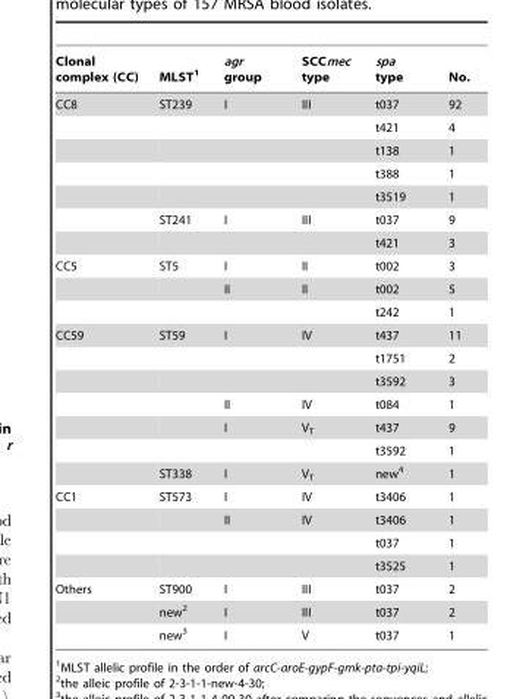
<table><thead><tr><td>Clonal complex (CC)</td><td>MLST<sup>1</sup></td><td>agr group</td><td>SCCmec type</td><td>spa type</td><td>No.</td></tr></thead><tbody><tr><td rowspan="7">CC8</td><td>ST239</td><td>I</td><td>III</td><td>t037</td><td>92</td></tr><tr><td></td><td></td><td></td><td>t421</td><td>4</td></tr><tr><td></td><td></td><td></td><td>t138</td><td>1</td></tr><tr><td></td><td></td><td></td><td>t388</td><td>1</td></tr><tr><td></td><td></td><td></td><td>t3519</td><td>1</td></tr><tr><td>ST241</td><td>I</td><td>III</td><td>t037</td><td>9</td></tr><tr><td></td><td></td><td></td><td>t421</td><td>3</td></tr><tr><td rowspan="3">CC5</td><td>ST5</td><td>I</td><td>II</td><td>t002</td><td>3</td></tr><tr><td></td><td>II</td><td>II</td><td>t002</td><td>5</td></tr><tr><td></td><td></td><td></td><td>t242</td><td>1</td></tr><tr><td rowspan="7">CC59</td><td>ST59</td><td>I</td><td>IV</td><td>t437</td><td>11</td></tr><tr><td></td><td></td><td></td><td>t1751</td><td>2</td></tr><tr><td></td><td></td><td></td><td>t3592</td><td>3</td></tr><tr><td></td><td>II</td><td>IV</td><td>t084</td><td>1</td></tr><tr><td></td><td>I</td><td>V<sub>T</sub></td><td>t437</td><td>9</td></tr><tr><td></td><td></td><td></td><td>t3592</td><td>1</td></tr><tr><td>ST338</td><td>I</td><td>V<sub>T</sub></td><td>new<sup>4</sup></td><td>1</td></tr><tr><td rowspan="4">CC1</td><td>ST573</td><td>I</td><td>IV</td><td>t3406</td><td>1</td></tr><tr><td></td><td>II</td><td>IV</td><td>t3406</td><td>1</td></tr><tr><td></td><td></td><td></td><td>t037</td><td>1</td></tr><tr><td></td><td></td><td></td><td>t3525</td><td>1</td></tr><tr><td rowspan="3">Others</td><td>ST900</td><td>I</td><td>III</td><td>t037</td><td>2</td></tr><tr><td>new<sup>2</sup></td><td>I</td><td>III</td><td>t037</td><td>2</td></tr><tr><td>new<sup>3</sup></td><td>I</td><td>V</td><td>t037</td><td>1</td></tr></tbody></table>